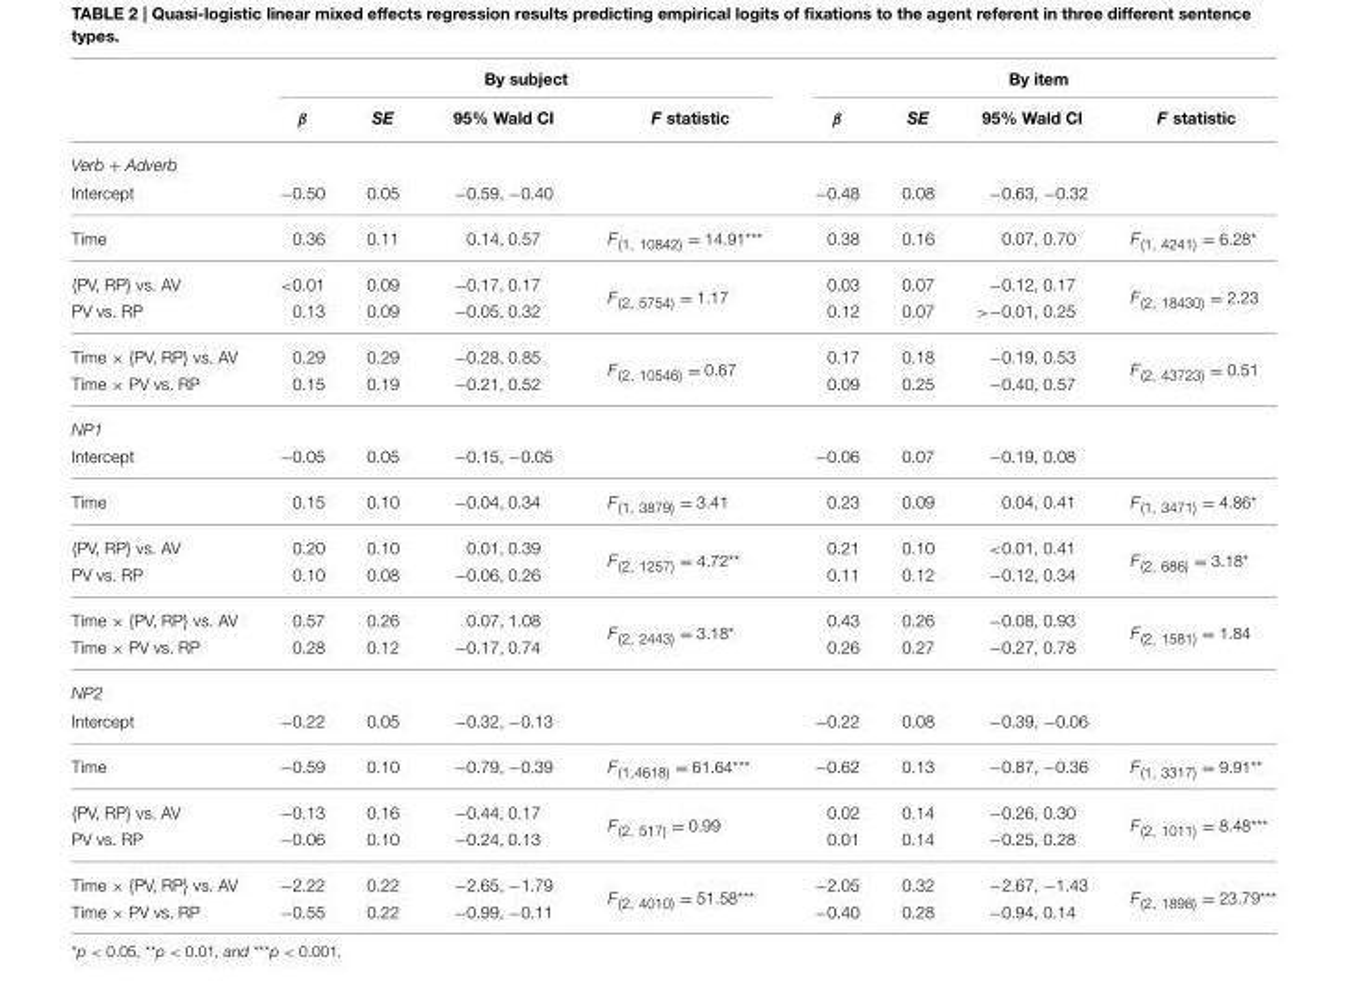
<table><thead><tr><td rowspan="2"></td><td colspan="4">By subject</td><td colspan="4">By item</td></tr><tr><td>β</td><td>SE</td><td>95% Wald CI</td><td>F statistic</td><td>β</td><td>SE</td><td>95% Wald CI</td><td>F statistic</td></tr></thead><tbody><tr><td colspan="9">Verb + Adverb</td></tr><tr><td>Intercept</td><td>−0.50</td><td>0.05</td><td>−0.59, −0.40</td><td></td><td>−0.48</td><td>0.08</td><td>−0.63, −0.32</td><td></td></tr><tr><td>Time</td><td>0.36</td><td>0.11</td><td>0.14, 0.57</td><td>F<sub>(1, 10842)</sub> = 14.91***</td><td>0.38</td><td>0.16</td><td>0.07, 0.70</td><td>F<sub>(1, 4241)</sub> = 6.28*</td></tr><tr><td>{PV, RP} vs. AV</td><td>&lt;0.01</td><td>0.09</td><td>−0.17, 0.17</td><td rowspan="2">F<sub>(2, 5754)</sub> = 1.17</td><td>0.03</td><td>0.07</td><td>−0.12, 0.17</td><td rowspan="2">F<sub>(2, 18430)</sub> = 2.23</td></tr><tr><td>PV vs. RP</td><td>0.13</td><td>0.09</td><td>−0.05, 0.32</td><td>0.12</td><td>0.07</td><td>&gt;−0.01, 0.25</td></tr><tr><td>Time × {PV, RP} vs. AV</td><td>0.29</td><td>0.29</td><td>−0.28, 0.85</td><td rowspan="2">F<sub>(2, 10546)</sub> = 0.67</td><td>0.17</td><td>0.18</td><td>−0.19, 0.53</td><td rowspan="2">F<sub>(2, 43723)</sub> = 0.51</td></tr><tr><td>Time × PV vs. RP</td><td>0.15</td><td>0.19</td><td>−0.21, 0.52</td><td>0.09</td><td>0.25</td><td>−0.40, 0.57</td></tr><tr><td colspan="9">NP1</td></tr><tr><td>Intercept</td><td>−0.05</td><td>0.05</td><td>−0.15, −0.05</td><td></td><td>−0.06</td><td>0.07</td><td>−0.19, 0.08</td><td></td></tr><tr><td>Time</td><td>0.15</td><td>0.10</td><td>−0.04, 0.34</td><td>F<sub>(1, 3879)</sub> = 3.41</td><td>0.23</td><td>0.09</td><td>0.04, 0.41</td><td>F<sub>(1, 3471)</sub> = 4.86*</td></tr><tr><td>{PV, RP} vs. AV</td><td>0.20</td><td>0.10</td><td>0.01, 0.39</td><td rowspan="2">F<sub>(2, 1257)</sub> = 4.72**</td><td>0.21</td><td>0.10</td><td>&lt;0.01, 0.41</td><td rowspan="2">F<sub>(2, 686)</sub> = 3.18*</td></tr><tr><td>PV vs. RP</td><td>0.10</td><td>0.08</td><td>−0.06, 0.26</td><td>0.11</td><td>0.12</td><td>−0.12, 0.34</td></tr><tr><td>Time × {PV, RP} vs. AV</td><td>0.57</td><td>0.26</td><td>0.07, 1.08</td><td rowspan="2">F<sub>(2, 2443)</sub> = 3.18*</td><td>0.43</td><td>0.26</td><td>−0.08, 0.93</td><td rowspan="2">F<sub>(2, 1581)</sub> = 1.84</td></tr><tr><td>Time × PV vs. RP</td><td>0.28</td><td>0.12</td><td>−0.17, 0.74</td><td>0.26</td><td>0.27</td><td>−0.27, 0.78</td></tr><tr><td colspan="9">NP2</td></tr><tr><td>Intercept</td><td>−0.22</td><td>0.05</td><td>−0.32, −0.13</td><td></td><td>−0.22</td><td>0.08</td><td>−0.39, −0.06</td><td></td></tr><tr><td>Time</td><td>−0.59</td><td>0.10</td><td>−0.79, −0.39</td><td>F<sub>(1,4618)</sub> = 61.64***</td><td>−0.62</td><td>0.13</td><td>−0.87, −0.36</td><td>F<sub>(1, 3317)</sub> = 9.91**</td></tr><tr><td>{PV, RP} vs. AV</td><td>−0.13</td><td>0.16</td><td>−0.44, 0.17</td><td rowspan="2">F<sub>(2, 517)</sub> = 0.99</td><td>0.02</td><td>0.14</td><td>−0.26, 0.30</td><td rowspan="2">F<sub>(2, 1011)</sub> = 8.48***</td></tr><tr><td>PV vs. RP</td><td>−0.06</td><td>0.10</td><td>−0.24, 0.13</td><td>0.01</td><td>0.14</td><td>−0.25, 0.28</td></tr><tr><td>Time × {PV, RP} vs. AV</td><td>−2.22</td><td>0.22</td><td>−2.65, −1.79</td><td rowspan="2">F<sub>(2, 4010)</sub> = 51.58***</td><td>−2.05</td><td>0.32</td><td>−2.67, −1.43</td><td rowspan="2">F<sub>(2, 1898)</sub> = 23.79***</td></tr><tr><td>Time × PV vs. RP</td><td>−0.55</td><td>0.22</td><td>−0.99, −0.11</td><td>−0.40</td><td>0.28</td><td>−0.94, 0.14</td></tr></tbody></table>